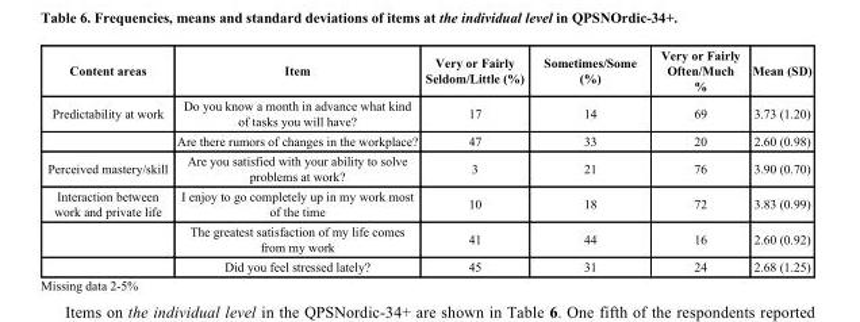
<table><thead><tr><td>Content areas</td><td>Item</td><td>Very or Fairly Seldom/Little (%)</td><td>Sometimes/Some (%)</td><td>Very or Fairly Often/Much %</td><td>Mean (SD)</td></tr></thead><tbody><tr><td rowspan="2">Predictability at work</td><td>Do you know a month in advance what kind of tasks you will have?</td><td>17</td><td>14</td><td>69</td><td>3.73 (1.20)</td></tr><tr><td>Are there rumors of changes in the workplace?</td><td>47</td><td>33</td><td>20</td><td>2.60 (0.98)</td></tr><tr><td>Perceived mastery/skill</td><td>Are you satisfied with your ability to solve problems at work?</td><td>3</td><td>21</td><td>76</td><td>3.90 (0.70)</td></tr><tr><td rowspan="3">Interaction between work and private life</td><td>I enjoy to go completely up in my work most of the time</td><td>10</td><td>18</td><td>72</td><td>3.83 (0.99)</td></tr><tr><td>The greatest satisfaction of my life comes from my work</td><td>41</td><td>44</td><td>16</td><td>2.60 (0.92)</td></tr><tr><td>Did you feel stressed lately?</td><td>45</td><td>31</td><td>24</td><td>2.68 (1.25)</td></tr></tbody></table>